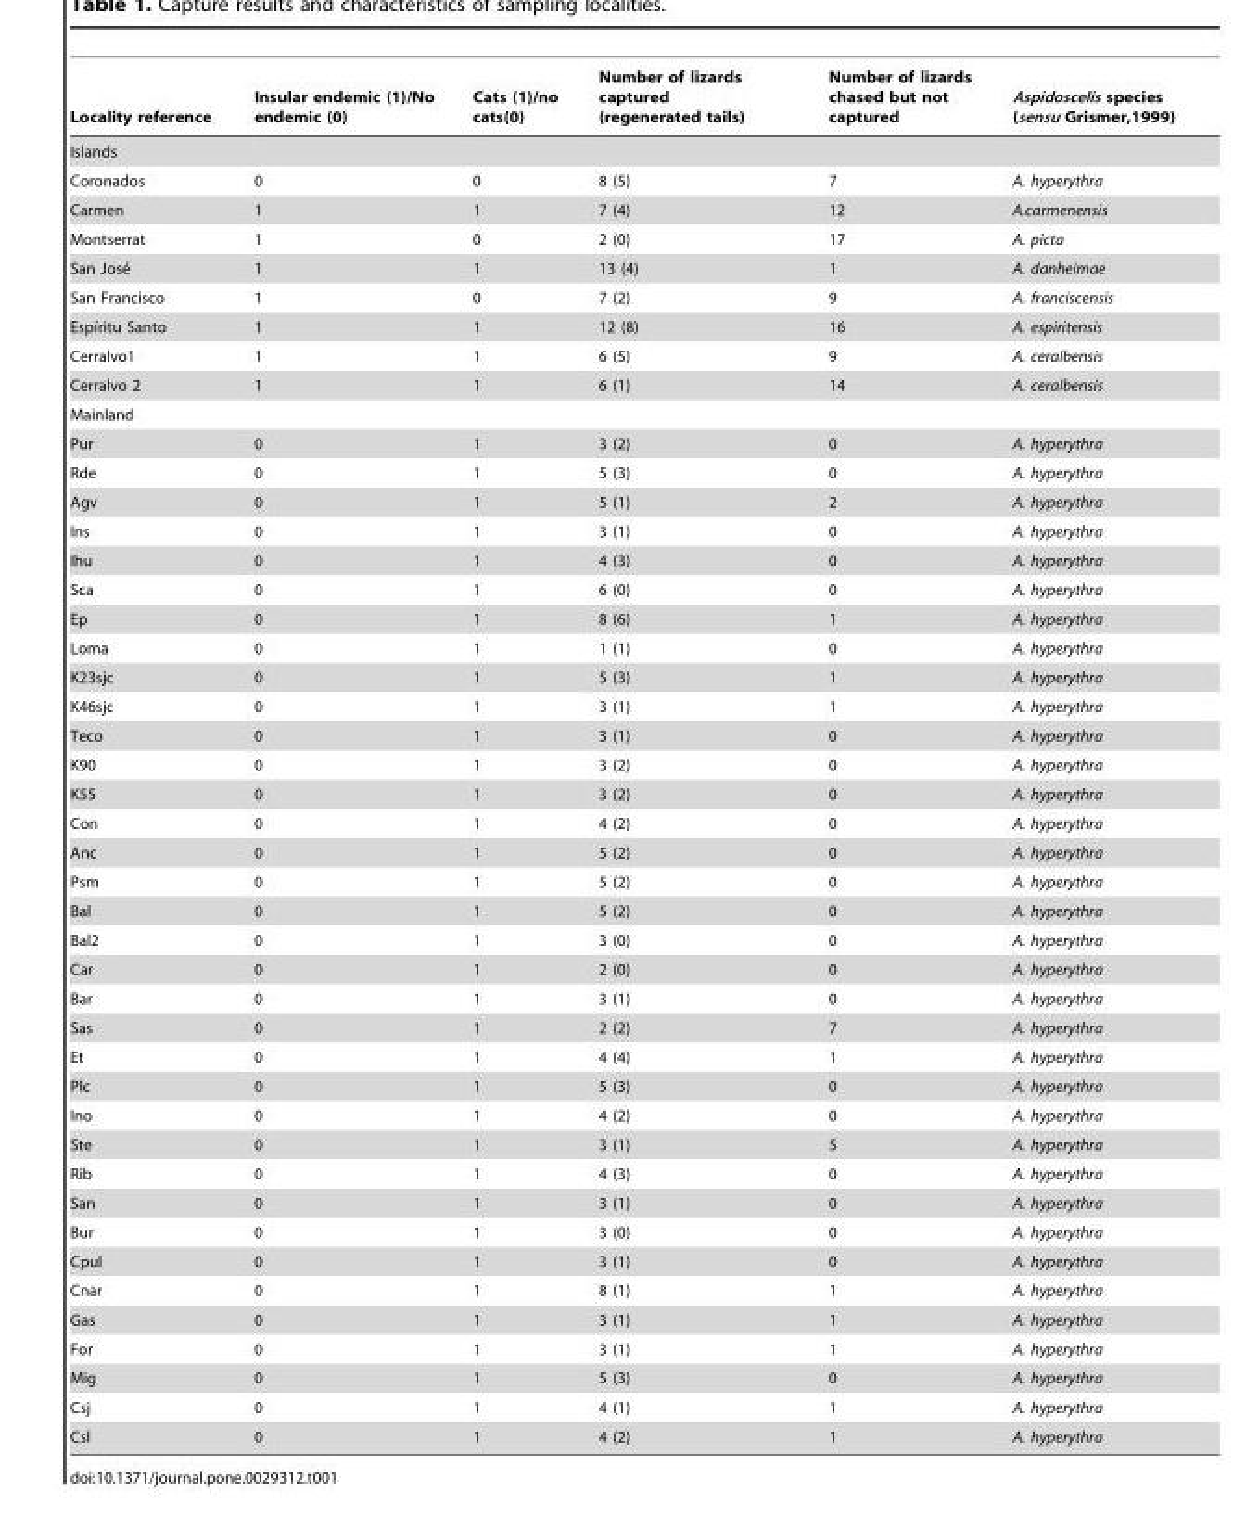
<table><thead><tr><td>Locality reference</td><td>Insular endemic (1)/No endemic (0)</td><td>Cats (1)/no cats(0)</td><td>Number of lizards captured (regenerated tails)</td><td>Number of lizards chased but not captured</td><td>Aspidoscelis species (sensu Grismer,1999)</td></tr></thead><tbody><tr><td colspan="6">Islands</td></tr><tr><td>Coronados</td><td>0</td><td>0</td><td>8 (5)</td><td>7</td><td>A. hyperythra</td></tr><tr><td>Carmen</td><td>1</td><td>1</td><td>7 (4)</td><td>12</td><td>A.carmenensis</td></tr><tr><td>Montserrat</td><td>1</td><td>0</td><td>2 (0)</td><td>17</td><td>A. picta</td></tr><tr><td>San Jose´</td><td>1</td><td>1</td><td>13 (4)</td><td>1</td><td>A. danheimae</td></tr><tr><td>San Francisco</td><td>1</td><td>0</td><td>7 (2)</td><td>9</td><td>A. franciscensis</td></tr><tr><td>Espı´ritu Santo</td><td>1</td><td>1</td><td>12 (8)</td><td>16</td><td>A. espiritensis</td></tr><tr><td>Cerralvo1</td><td>1</td><td>1</td><td>6 (5)</td><td>9</td><td>A. ceralbensis</td></tr><tr><td>Cerralvo 2</td><td>1</td><td>1</td><td>6 (1)</td><td>14</td><td>A. ceralbensis</td></tr><tr><td colspan="6">Mainland</td></tr><tr><td>Pur</td><td>0</td><td>1</td><td>3 (2)</td><td>0</td><td>A. hyperythra</td></tr><tr><td>Rde</td><td>0</td><td>1</td><td>5 (3)</td><td>0</td><td>A. hyperythra</td></tr><tr><td>Agv</td><td>0</td><td>1</td><td>5 (1)</td><td>2</td><td>A. hyperythra</td></tr><tr><td>Ins</td><td>0</td><td>1</td><td>3 (1)</td><td>0</td><td>A. hyperythra</td></tr><tr><td>Ihu</td><td>0</td><td>1</td><td>4 (3)</td><td>0</td><td>A. hyperythra</td></tr><tr><td>Sca</td><td>0</td><td>1</td><td>6 (0)</td><td>0</td><td>A. hyperythra</td></tr><tr><td>Ep</td><td>0</td><td>1</td><td>8 (6)</td><td>1</td><td>A. hyperythra</td></tr><tr><td>Loma</td><td>0</td><td>1</td><td>1 (1)</td><td>0</td><td>A. hyperythra</td></tr><tr><td>K23sjc</td><td>0</td><td>1</td><td>5 (3)</td><td>1</td><td>A. hyperythra</td></tr><tr><td>K46sjc</td><td>0</td><td>1</td><td>3 (1)</td><td>1</td><td>A. hyperythra</td></tr><tr><td>Teco</td><td>0</td><td>1</td><td>3 (1)</td><td>0</td><td>A. hyperythra</td></tr><tr><td>K90</td><td>0</td><td>1</td><td>3 (2)</td><td>0</td><td>A. hyperythra</td></tr><tr><td>K55</td><td>0</td><td>1</td><td>3 (2)</td><td>0</td><td>A. hyperythra</td></tr><tr><td>Con</td><td>0</td><td>1</td><td>4 (2)</td><td>0</td><td>A. hyperythra</td></tr><tr><td>Anc</td><td>0</td><td>1</td><td>5 (2)</td><td>0</td><td>A. hyperythra</td></tr><tr><td>Psm</td><td>0</td><td>1</td><td>5 (2)</td><td>0</td><td>A. hyperythra</td></tr><tr><td>Bal</td><td>0</td><td>1</td><td>5 (2)</td><td>0</td><td>A. hyperythra</td></tr><tr><td>Bal2</td><td>0</td><td>1</td><td>3 (0)</td><td>0</td><td>A. hyperythra</td></tr><tr><td>Car</td><td>0</td><td>1</td><td>2 (0)</td><td>0</td><td>A. hyperythra</td></tr><tr><td>Bar</td><td>0</td><td>1</td><td>3 (1)</td><td>0</td><td>A. hyperythra</td></tr><tr><td>Sas</td><td>0</td><td>1</td><td>2 (2)</td><td>7</td><td>A. hyperythra</td></tr><tr><td>Et</td><td>0</td><td>1</td><td>4 (4)</td><td>1</td><td>A. hyperythra</td></tr><tr><td>Plc</td><td>0</td><td>1</td><td>5 (3)</td><td>0</td><td>A. hyperythra</td></tr><tr><td>Ino</td><td>0</td><td>1</td><td>4 (2)</td><td>0</td><td>A. hyperythra</td></tr><tr><td>Ste</td><td>0</td><td>1</td><td>3 (1)</td><td>5</td><td>A. hyperythra</td></tr><tr><td>Rib</td><td>0</td><td>1</td><td>4 (3)</td><td>0</td><td>A. hyperythra</td></tr><tr><td>San</td><td>0</td><td>1</td><td>3 (1)</td><td>0</td><td>A. hyperythra</td></tr><tr><td>Bur</td><td>0</td><td>1</td><td>3 (0)</td><td>0</td><td>A. hyperythra</td></tr><tr><td>Cpul</td><td>0</td><td>1</td><td>3 (1)</td><td>0</td><td>A. hyperythra</td></tr><tr><td>Cnar</td><td>0</td><td>1</td><td>8 (1)</td><td>1</td><td>A. hyperythra</td></tr><tr><td>Gas</td><td>0</td><td>1</td><td>3 (1)</td><td>1</td><td>A. hyperythra</td></tr><tr><td>For</td><td>0</td><td>1</td><td>3 (1)</td><td>1</td><td>A. hyperythra</td></tr><tr><td>Mig</td><td>0</td><td>1</td><td>5 (3)</td><td>0</td><td>A. hyperythra</td></tr><tr><td>Csj</td><td>0</td><td>1</td><td>4 (1)</td><td>1</td><td>A. hyperythra</td></tr><tr><td>Csl</td><td>0</td><td>1</td><td>4 (2)</td><td>1</td><td>A. hyperythra</td></tr></tbody></table>